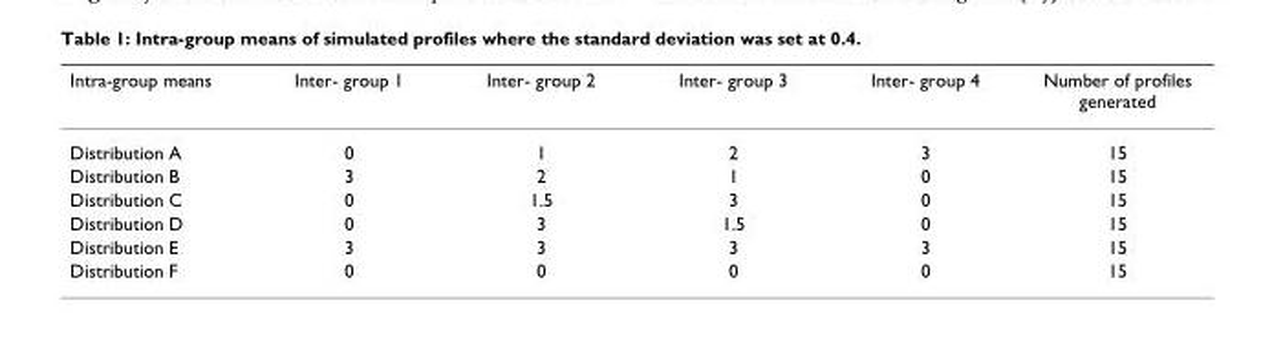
<table><thead><tr><td>Intra-group means</td><td>Inter- group 1</td><td>Inter- group 2</td><td>Inter- group 3</td><td>Inter- group 4</td><td>Number of profiles generated</td></tr></thead><tbody><tr><td>Distribution A</td><td>0</td><td>1</td><td>2</td><td>3</td><td>15</td></tr><tr><td>Distribution B</td><td>3</td><td>2</td><td>1</td><td>0</td><td>15</td></tr><tr><td>Distribution C</td><td>0</td><td>1.5</td><td>3</td><td>0</td><td>15</td></tr><tr><td>Distribution D</td><td>0</td><td>3</td><td>1.5</td><td>0</td><td>15</td></tr><tr><td>Distribution E</td><td>3</td><td>3</td><td>3</td><td>3</td><td>15</td></tr><tr><td>Distribution F</td><td>0</td><td>0</td><td>0</td><td>0</td><td>15</td></tr></tbody></table>